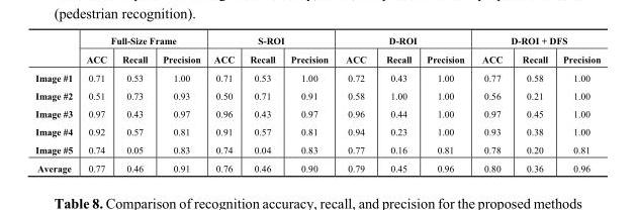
<table><thead><tr><td rowspan="2"></td><td colspan="3">Full-Size Frame</td><td colspan="3">S-ROI</td><td colspan="3">D-ROI</td><td colspan="3">D-ROI + DFS</td></tr><tr><td>ACC</td><td>Recall</td><td>Precision</td><td>ACC</td><td>Recall</td><td>Precision</td><td>ACC</td><td>Recall</td><td>Precision</td><td>ACC</td><td>Recall</td><td>Precision</td></tr></thead><tbody><tr><td>Image #1</td><td>0.71</td><td>0.53</td><td>1.00</td><td>0.71</td><td>0.53</td><td>1.00</td><td>0.72</td><td>0.43</td><td>1.00</td><td>0.77</td><td>0.58</td><td>1.00</td></tr><tr><td>Image #2</td><td>0.51</td><td>0.73</td><td>0.93</td><td>0.50</td><td>0.71</td><td>0.91</td><td>0.58</td><td>1.00</td><td>1.00</td><td>0.56</td><td>0.21</td><td>1.00</td></tr><tr><td>Image #3</td><td>0.97</td><td>0.43</td><td>0.97</td><td>0.96</td><td>0.43</td><td>0.97</td><td>0.96</td><td>0.44</td><td>1.00</td><td>0.97</td><td>0.45</td><td>1.00</td></tr><tr><td>Image #4</td><td>0.92</td><td>0.57</td><td>0.81</td><td>0.91</td><td>0.57</td><td>0.81</td><td>0.94</td><td>0.23</td><td>1.00</td><td>0.93</td><td>0.38</td><td>1.00</td></tr><tr><td>Image #5</td><td>0.74</td><td>0.05</td><td>0.83</td><td>0.74</td><td>0.04</td><td>0.83</td><td>0.77</td><td>0.16</td><td>0.81</td><td>0.78</td><td>0.20</td><td>0.81</td></tr><tr><td>Average</td><td>0.77</td><td>0.46</td><td>0.91</td><td>0.76</td><td>0.46</td><td>0.90</td><td>0.79</td><td>0.45</td><td>0.96</td><td>0.80</td><td>0.36</td><td>0.96</td></tr></tbody></table>